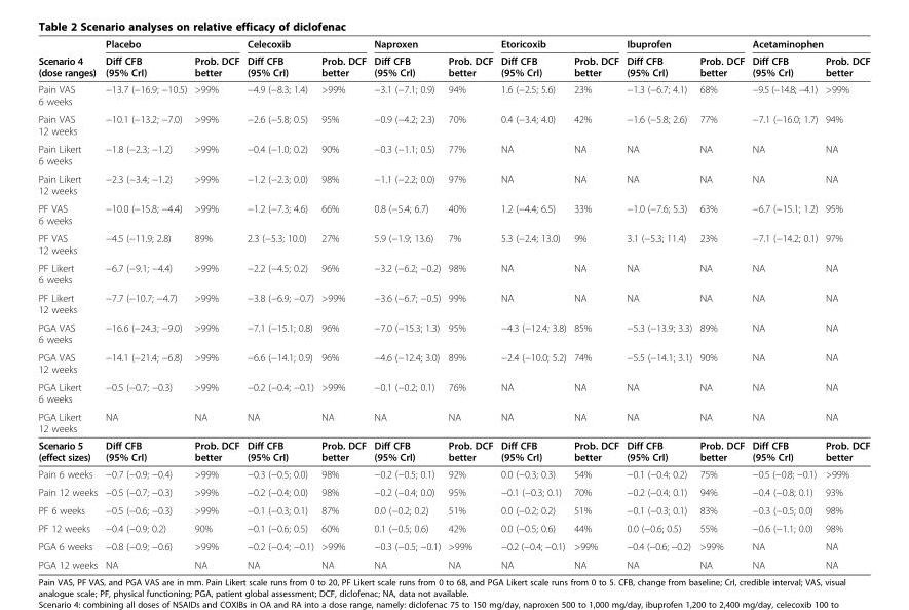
<table><thead><tr><td rowspan="2">Scenario 4 (dose ranges)</td><td colspan="2">Placebo</td><td colspan="2">Celecoxib</td><td colspan="2">Naproxen</td><td colspan="2">Etoricoxib</td><td colspan="2">Ibuprofen</td><td colspan="2">Acetaminophen</td></tr><tr><td>Diff CFB (95% CrI)</td><td>Prob. DCF better</td><td>Diff CFB (95% CrI)</td><td>Prob. DCF better</td><td>Diff CFB (95% CrI)</td><td>Prob. DCF better</td><td>Diff CFB (95% CrI)</td><td>Prob. DCF better</td><td>Diff CFB (95% CrI)</td><td>Prob. DCF better</td><td>Diff CFB (95% CrI)</td><td>Prob. DCF better</td></tr></thead><tbody><tr><td>Pain VAS 6 weeks</td><td>−13.7 (−16.9; −10.5)</td><td>&gt;99%</td><td>−4.9 (−8.3; 1.4)</td><td>&gt;99%</td><td>−3.1 (−7.1; 0.9)</td><td>94%</td><td>1.6 (−2.5; 5.6)</td><td>23%</td><td>−1.3 (−6.7; 4.1)</td><td>68%</td><td>−9.5 (−14.8; −4.1)</td><td>&gt;99%</td></tr><tr><td>Pain VAS 12 weeks</td><td>−10.1 (−13.2; −7.0)</td><td>&gt;99%</td><td>−2.6 (−5.8; 0.5)</td><td>95%</td><td>−0.9 (−4.2; 2.3)</td><td>70%</td><td>0.4 (−3.4; 4.0)</td><td>42%</td><td>−1.6 (−5.8; 2.6)</td><td>77%</td><td>−7.1 (−16.0; 1.7)</td><td>94%</td></tr><tr><td>Pain Likert 6 weeks</td><td>−1.8 (−2.3; −1.2)</td><td>&gt;99%</td><td>−0.4 (−1.0; 0.2)</td><td>90%</td><td>−0.3 (−1.1; 0.5)</td><td>77%</td><td>NA</td><td>NA</td><td>NA</td><td>NA</td><td>NA</td><td>NA</td></tr><tr><td>Pain Likert 12 weeks</td><td>−2.3 (−3.4; −1.2)</td><td>&gt;99%</td><td>−1.2 (−2.3; 0.0)</td><td>98%</td><td>−1.1 (−2.2; 0.0)</td><td>97%</td><td>NA</td><td>NA</td><td>NA</td><td>NA</td><td>NA</td><td>NA</td></tr><tr><td>PF VAS 6 weeks</td><td>−10.0 (−15.8; −4.4)</td><td>&gt;99%</td><td>−1.2 (−7.3; 4.6)</td><td>66%</td><td>0.8 (−5.4; 6.7)</td><td>40%</td><td>1.2 (−4.4; 6.5)</td><td>33%</td><td>−1.0 (−7.6; 5.3)</td><td>63%</td><td>−6.7 (−15.1; 1.2)</td><td>95%</td></tr><tr><td>PF VAS 12 weeks</td><td>−4.5 (−11.9; 2.8)</td><td>89%</td><td>2.3 (−5.3; 10.0)</td><td>27%</td><td>5.9 (−1.9; 13.6)</td><td>7%</td><td>5.3 (−2.4; 13.0)</td><td>9%</td><td>3.1 (−5.3; 11.4)</td><td>23%</td><td>−7.1 (−14.2; 0.1)</td><td>97%</td></tr><tr><td>PF Likert 6 weeks</td><td>−6.7 (−9.1; −4.4)</td><td>&gt;99%</td><td>−2.2 (−4.5; 0.2)</td><td>96%</td><td>−3.2 (−6.2; −0.2)</td><td>98%</td><td>NA</td><td>NA</td><td>NA</td><td>NA</td><td>NA</td><td>NA</td></tr><tr><td>PF Likert 12 weeks</td><td>−7.7 (−10.7; −4.7)</td><td>&gt;99%</td><td>−3.8 (−6.9; −0.7)</td><td>&gt;99%</td><td>−3.6 (−6.7; −0.5)</td><td>99%</td><td>NA</td><td>NA</td><td>NA</td><td>NA</td><td>NA</td><td>NA</td></tr><tr><td>PGA VAS 6 weeks</td><td>−16.6 (−24.3; −9.0)</td><td>&gt;99%</td><td>−7.1 (−15.1; 0.8)</td><td>96%</td><td>−7.0 (−15.3; 1.3)</td><td>95%</td><td>−4.3 (−12.4; 3.8)</td><td>85%</td><td>−5.3 (−13.9; 3.3)</td><td>89%</td><td>NA</td><td>NA</td></tr><tr><td>PGA VAS 12 weeks</td><td>−14.1 (−21.4; −6.8)</td><td>&gt;99%</td><td>−6.6 (−14.1; 0.9)</td><td>96%</td><td>−4.6 (−12.4; 3.0)</td><td>89%</td><td>−2.4 (−10.0; 5.2)</td><td>74%</td><td>−5.5 (−14.1; 3.1)</td><td>90%</td><td>NA</td><td>NA</td></tr><tr><td>PGA Likert 6 weeks</td><td>−0.5 (−0.7; −0.3)</td><td>&gt;99%</td><td>−0.2 (−0.4; −0.1)</td><td>&gt;99%</td><td>−0.1 (−0.2; 0.1)</td><td>76%</td><td>NA</td><td>NA</td><td>NA</td><td>NA</td><td>NA</td><td>NA</td></tr><tr><td>PGA Likert 12 weeks</td><td>NA</td><td>NA</td><td>NA</td><td>NA</td><td>NA</td><td>NA</td><td>NA</td><td>NA</td><td>NA</td><td>NA</td><td>NA</td><td>NA</td></tr><tr><td>Scenario 5 (effect sizes)</td><td>Diff CFB (95% CrI)</td><td>Prob. DCF better</td><td>Diff CFB (95% CrI)</td><td>Prob. DCF better</td><td>Diff CFB (95% CrI)</td><td>Prob. DCF better</td><td>Diff CFB (95% CrI)</td><td>Prob. DCF better</td><td>Diff CFB (95% CrI)</td><td>Prob. DCF better</td><td>Diff CFB (95% CrI)</td><td>Prob. DCF better</td></tr><tr><td>Pain 6 weeks</td><td>−0.7 (−0.9; −0.4)</td><td>&gt;99%</td><td>−0.3 (−0.5; 0.0)</td><td>98%</td><td>−0.2 (−0.5; 0.1)</td><td>92%</td><td>0.0 (−0.3; 0.3)</td><td>54%</td><td>−0.1 (−0.4; 0.2)</td><td>75%</td><td>−0.5 (−0.8; −0.1)</td><td>&gt;99%</td></tr><tr><td>Pain 12 weeks</td><td>−0.5 (−0.7; −0.3)</td><td>&gt;99%</td><td>−0.2 (−0.4; 0.0)</td><td>98%</td><td>−0.2 (−0.4; 0.0)</td><td>95%</td><td>−0.1 (−0.3; 0.1)</td><td>70%</td><td>−0.2 (−0.4; 0.1)</td><td>94%</td><td>−0.4 (−0.8; 0.1)</td><td>93%</td></tr><tr><td>PF 6 weeks</td><td>−0.5 (−0.6; −0.3)</td><td>&gt;99%</td><td>−0.1 (−0.3; 0.1)</td><td>87%</td><td>0.0 (−0.2; 0.2)</td><td>51%</td><td>0.0 (−0.2; 0.2)</td><td>51%</td><td>−0.1 (−0.3; 0.1)</td><td>83%</td><td>−0.3 (−0.5; 0.0)</td><td>98%</td></tr><tr><td>PF 12 weeks</td><td>−0.4 (−0.9; 0.2)</td><td>90%</td><td>−0.1 (−0.6; 0.5)</td><td>60%</td><td>0.1 (−0.5; 0.6)</td><td>42%</td><td>0.0 (−0.5; 0.6)</td><td>44%</td><td>0.0 (−0.6; 0.5)</td><td>55%</td><td>−0.6 (−1.1; 0.0)</td><td>98%</td></tr><tr><td>PGA 6 weeks</td><td>−0.8 (−0.9; −0.6)</td><td>&gt;99%</td><td>−0.2 (−0.4; −0.1)</td><td>&gt;99%</td><td>−0.3 (−0.5; −0.1)</td><td>&gt;99%</td><td>−0.2 (−0.4; −0.1)</td><td>&gt;99%</td><td>−0.4 (−0.6; −0.2)</td><td>&gt;99%</td><td>NA</td><td>NA</td></tr><tr><td>PGA 12 weeks</td><td>NA</td><td>NA</td><td>NA</td><td>NA</td><td>NA</td><td>NA</td><td>NA</td><td>NA</td><td>NA</td><td>NA</td><td>NA</td><td>NA</td></tr></tbody></table>